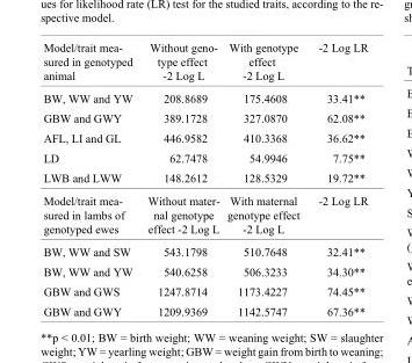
<table><thead><tr><td>Model/trait mea- sured in genotyped animal</td><td>Without geno- type effect -2 Log L</td><td>With genotype effect -2 Log L</td><td>-2 Log LR</td></tr></thead><tbody><tr><td>BW, WW and YW</td><td>208.8689</td><td>175.4608</td><td>33.41**</td></tr><tr><td>GBW and GWY</td><td>389.1728</td><td>327.0870</td><td>62.08**</td></tr><tr><td>AFL, LI and GL</td><td>446.9582</td><td>410.3368</td><td>36.62**</td></tr><tr><td>LD</td><td>62.7478</td><td>54.9946</td><td>7.75**</td></tr><tr><td>LWB and LWW</td><td>148.2612</td><td>128.5329</td><td>19.72**</td></tr><tr><td>Model/trait mea- sured in lambs of genotyped ewes</td><td>Without mater- nal genotype effect -2 Log L</td><td>With maternal genotype effect -2 Log L</td><td>-2 Log LR</td></tr><tr><td>BW, WW and SW</td><td>543.1798</td><td>510.7648</td><td>32.41**</td></tr><tr><td>BW, WW and YW</td><td>540.6258</td><td>506.3233</td><td>34.30**</td></tr><tr><td>GBW and GWS</td><td>1247.8714</td><td>1173.4227</td><td>74.45**</td></tr><tr><td>GBW and GWY</td><td>1209.9369</td><td>1142.5747</td><td>67.36**</td></tr></tbody></table>